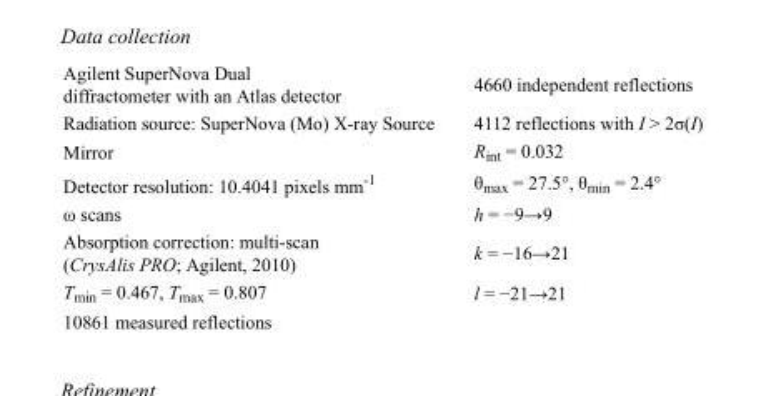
<table><tbody><tr><td>Agilent SuperNova Dual diffractometer with an Atlas detector</td><td>4660 independent reflections</td></tr><tr><td>Radiation source: SuperNova (Mo) X-ray Source</td><td>4112 reflections with I &gt; 2σ(I)</td></tr><tr><td>Mirror</td><td>R<sub>int</sub> = 0.032</td></tr><tr><td>Detector resolution: 10.4041 pixels mm<sup>-1</sup></td><td>θ<sub>max</sub> = 27.5°, θ<sub>min</sub> = 2.4°</td></tr><tr><td>ω scans</td><td>h = −9→9</td></tr><tr><td>Absorption correction: multi-scan (CrysAlis PRO; Agilent, 2010)</td><td>k = −16→21</td></tr><tr><td>T<sub>min</sub> = 0.467, T<sub>max</sub> = 0.807</td><td>l = −21→21</td></tr><tr><td>10861 measured reflections</td><td></td></tr></tbody></table>